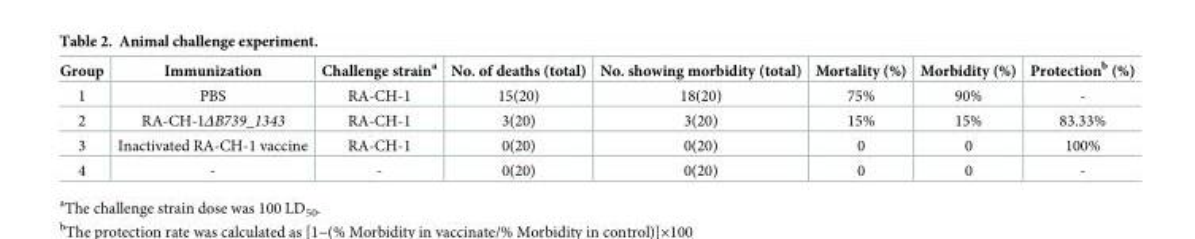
<table><thead><tr><td>Group</td><td>Immunization</td><td>Challenge strain<sup>a</sup></td><td>No. of deaths (total)</td><td>No. showing morbidity (total)</td><td>Mortality (%)</td><td>Morbidity (%)</td><td>Protection<sup>b</sup> (%)</td></tr></thead><tbody><tr><td>1</td><td>PBS</td><td>RA-CH-1</td><td>15(20)</td><td>18(20)</td><td>75%</td><td>90%</td><td>-</td></tr><tr><td>2</td><td>RA-CH-1ΔB739_1343</td><td>RA-CH-1</td><td>3(20)</td><td>3(20)</td><td>15%</td><td>15%</td><td>83.33%</td></tr><tr><td>3</td><td>Inactivated RA-CH-1 vaccine</td><td>RA-CH-1</td><td>0(20)</td><td>0(20)</td><td>0</td><td>0</td><td>100%</td></tr><tr><td>4</td><td>-</td><td>-</td><td>0(20)</td><td>0(20)</td><td>0</td><td>0</td><td>-</td></tr></tbody></table>